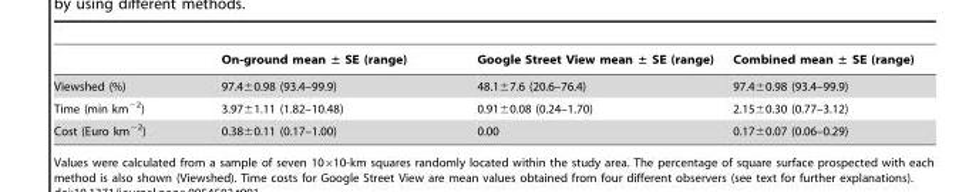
<table><thead><tr><td></td><td>On-ground mean ± SE (range)</td><td>Google Street View mean ± SE (range)</td><td>Combined mean ± SE (range)</td></tr></thead><tbody><tr><td>Viewshed (%)</td><td>97.4±0.98 (93.4–99.9)</td><td>48.1±7.6 (20.6–76.4)</td><td>97.4±0.98 (93.4–99.9)</td></tr><tr><td>Time (min km<sup>−2</sup>)</td><td>3.97±1.11 (1.82–10.48)</td><td>0.91±0.08 (0.24–1.70)</td><td>2.15±0.30 (0.77–3.12)</td></tr><tr><td>Cost (Euro km<sup>−2</sup>)</td><td>0.38±0.11 (0.17–1.00)</td><td>0.00</td><td>0.17±0.07 (0.06–0.29)</td></tr></tbody></table>